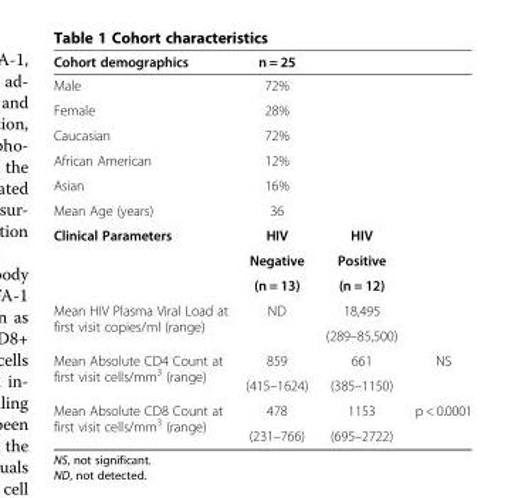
<table><thead><tr><td>Cohort demographics</td><td>n = 25</td><td></td><td></td></tr></thead><tbody><tr><td>Male</td><td>72%</td><td></td><td></td></tr><tr><td>Female</td><td>28%</td><td></td><td></td></tr><tr><td>Caucasian</td><td>72%</td><td></td><td></td></tr><tr><td>African American</td><td>12%</td><td></td><td></td></tr><tr><td>Asian</td><td>16%</td><td></td><td></td></tr><tr><td>Mean Age (years)</td><td>36</td><td></td><td></td></tr><tr><td rowspan="3">Clinical Parameters</td><td>HIV</td><td>HIV</td><td rowspan="3"></td></tr><tr><td>Negative</td><td>Positive</td></tr><tr><td>(n = 13)</td><td>(n = 12)</td></tr><tr><td rowspan="2">Mean HIV Plasma Viral Load at first visit copies/ml (range)</td><td rowspan="2">ND</td><td>18,495</td><td rowspan="2"></td></tr><tr><td>(289–85,500)</td></tr><tr><td rowspan="2">Mean Absolute CD4 Count at first visit cells/mm<sup>3</sup> (range)</td><td>859</td><td>661</td><td rowspan="2">NS</td></tr><tr><td>(415–1624)</td><td>(385–1150)</td></tr><tr><td rowspan="2">Mean Absolute CD8 Count at first visit cells/mm<sup>3</sup> (range)</td><td>478</td><td>1153</td><td rowspan="2">p &lt; 0.0001</td></tr><tr><td>(231–766)</td><td>(695–2722)</td></tr></tbody></table>